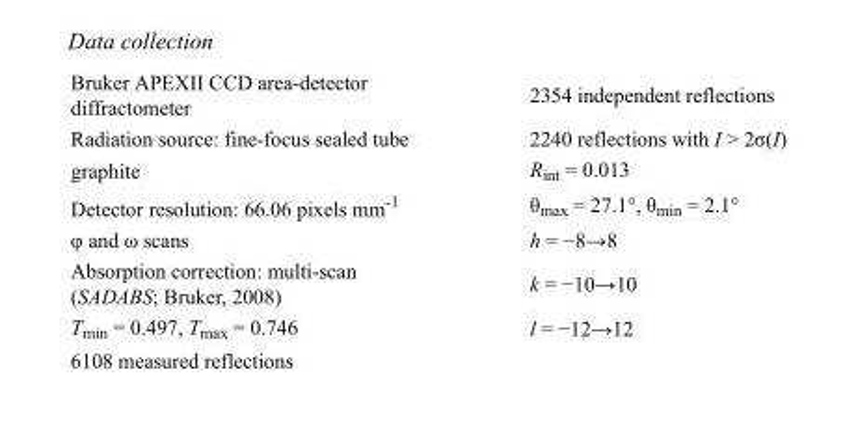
<table><tbody><tr><td>Bruker APEXII CCD area-detector diffractometer</td><td>2354 independent reflections</td></tr><tr><td>Radiation source: fine-focus sealed tube</td><td>2240 reflections with I &gt; 2σ(I)</td></tr><tr><td>graphite</td><td>R<sub>int</sub> = 0.013</td></tr><tr><td>Detector resolution: 66.06 pixels mm<sup>-1</sup></td><td>θ<sub>max</sub> = 27.1°, θ<sub>min</sub> = 2.1°</td></tr><tr><td>φ and ω scans</td><td>h = −8→8</td></tr><tr><td>Absorption correction: multi-scan (SADABS; Bruker, 2008)</td><td>k = −10→10</td></tr><tr><td>T<sub>min</sub> = 0.497, T<sub>max</sub> = 0.746</td><td>l = −12→12</td></tr><tr><td>6108 measured reflections</td><td></td></tr></tbody></table>